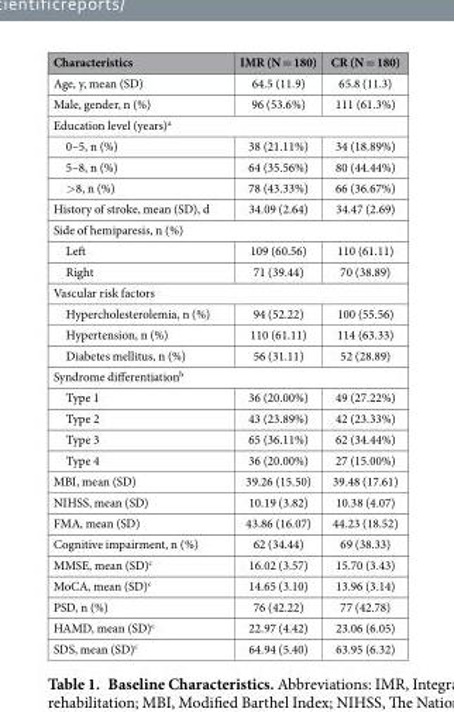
<table><thead><tr><td>Characteristics</td><td>IMR (N = 180)</td><td>CR (N = 180)</td></tr></thead><tbody><tr><td>Age, y, mean (SD)</td><td>64.5 (11.9)</td><td>65.8 (11.3)</td></tr><tr><td>Male, gender, n (%)</td><td>96 (53.6%)</td><td>111 (61.3%)</td></tr><tr><td colspan="3">Education level (years)<sup>a</sup></td></tr><tr><td>0–5, n (%)</td><td>38 (21.11%)</td><td>34 (18.89%)</td></tr><tr><td>5–8, n (%)</td><td>64 (35.56%)</td><td>80 (44.44%)</td></tr><tr><td>&gt; 8, n (%)</td><td>78 (43.33%)</td><td>66 (36.67%)</td></tr><tr><td>History of stroke, mean (SD), d</td><td>34.09 (2.64)</td><td>34.47 (2.69)</td></tr><tr><td colspan="3">Side of hemiparesis, n (%)</td></tr><tr><td>Left</td><td>109 (60.56)</td><td>110 (61.11)</td></tr><tr><td>Right</td><td>71 (39.44)</td><td>70 (38.89)</td></tr><tr><td colspan="3">Vascular risk factors</td></tr><tr><td>Hypercholesterolemia, n (%)</td><td>94 (52.22)</td><td>100 (55.56)</td></tr><tr><td>Hypertension, n (%)</td><td>110 (61.11)</td><td>114 (63.33)</td></tr><tr><td>Diabetes mellitus, n (%)</td><td>56 (31.11)</td><td>52 (28.89)</td></tr><tr><td colspan="3">Syndrome differentiation<sup>b</sup></td></tr><tr><td>Type 1</td><td>36 (20.00%)</td><td>49 (27.22%)</td></tr><tr><td>Type 2</td><td>43 (23.89%)</td><td>42 (23.33%)</td></tr><tr><td>Type 3</td><td>65 (36.11%)</td><td>62 (34.44%)</td></tr><tr><td>Type 4</td><td>36 (20.00%)</td><td>27 (15.00%)</td></tr><tr><td>MBI, mean (SD)</td><td>39.26 (15.50)</td><td>39.48 (17.61)</td></tr><tr><td>NIHSS, mean (SD)</td><td>10.19 (3.82)</td><td>10.38 (4.07)</td></tr><tr><td>FMA, mean (SD)</td><td>43.86 (16.07)</td><td>44.23 (18.52)</td></tr><tr><td>Cognitive impairment, n (%)</td><td>62 (34.44)</td><td>69 (38.33)</td></tr><tr><td>MMSE, mean (SD)<sup>c</sup></td><td>16.02 (3.57)</td><td>15.70 (3.43)</td></tr><tr><td>MoCA, mean (SD)<sup>c</sup></td><td>14.65 (3.10)</td><td>13.96 (3.14)</td></tr><tr><td>PSD, n (%)</td><td>76 (42.22)</td><td>77 (42.78)</td></tr><tr><td>HAMD, mean (SD)<sup>c</sup></td><td>22.97 (4.42)</td><td>23.06 (6.05)</td></tr><tr><td>SDS, mean (SD)<sup>c</sup></td><td>64.94 (5.40)</td><td>63.95 (6.32)</td></tr></tbody></table>